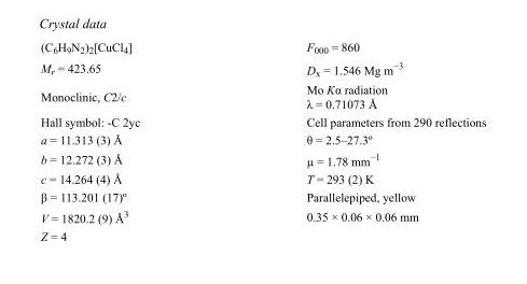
<table><tbody><tr><td>(C<sub>6</sub>H<sub>9</sub>N<sub>2</sub>)<sub>2</sub>[CuCl<sub>4</sub>]</td><td>F000 = 860</td></tr><tr><td>M<sub>r</sub> = 423.65</td><td>D<sub>x</sub> = 1.546 Mg m<sup>−3</sup></td></tr><tr><td>Monoclinic, C2/c</td><td>Mo Kα radiation λ = 0.71073 Å</td></tr><tr><td>Hall symbol: -C 2yc</td><td>Cell parameters from 290 reflections</td></tr><tr><td>a = 11.313 (3) Å</td><td>θ = 2.5–27.3º</td></tr><tr><td>b = 12.272 (3) Å</td><td>µ = 1.78 mm<sup>−1</sup></td></tr><tr><td>c = 14.264 (4) Å</td><td>T = 293 (2) K</td></tr><tr><td>β = 113.201 (17)º</td><td>Parallelepiped, yellow</td></tr><tr><td>V = 1820.2 (9) Å<sup>3</sup></td><td>0.35 × 0.06 × 0.06 mm</td></tr><tr><td>Z = 4</td><td></td></tr></tbody></table>